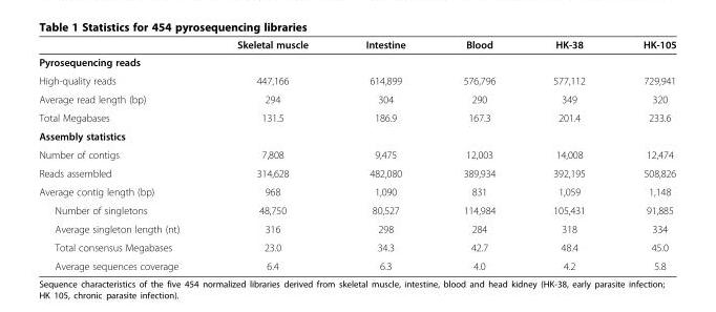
<table><thead><tr><td></td><td>Skeletal muscle</td><td>Intestine</td><td>Blood</td><td>HK-38</td><td>HK-105</td></tr></thead><tbody><tr><td colspan="6">Pyrosequencing reads</td></tr><tr><td>High-quality reads</td><td>447,166</td><td>614,899</td><td>576,796</td><td>577,112</td><td>729,941</td></tr><tr><td>Average read length (bp)</td><td>294</td><td>304</td><td>290</td><td>349</td><td>320</td></tr><tr><td>Total Megabases</td><td>131.5</td><td>186.9</td><td>167.3</td><td>201.4</td><td>233.6</td></tr><tr><td colspan="6">Assembly statistics</td></tr><tr><td>Number of contigs</td><td>7,808</td><td>9,475</td><td>12,003</td><td>14,008</td><td>12,474</td></tr><tr><td>Reads assembled</td><td>314,628</td><td>482,080</td><td>389,934</td><td>392,195</td><td>508,826</td></tr><tr><td>Average contig length (bp)</td><td>968</td><td>1,090</td><td>831</td><td>1,059</td><td>1,148</td></tr><tr><td>Number of singletons</td><td>48,750</td><td>80,527</td><td>114,984</td><td>105,431</td><td>91,885</td></tr><tr><td>Average singleton length (nt)</td><td>316</td><td>298</td><td>284</td><td>318</td><td>334</td></tr><tr><td>Total consensus Megabases</td><td>23.0</td><td>34.3</td><td>42.7</td><td>48.4</td><td>45.0</td></tr><tr><td>Average sequences coverage</td><td>6.4</td><td>6.3</td><td>4.0</td><td>4.2</td><td>5.8</td></tr></tbody></table>